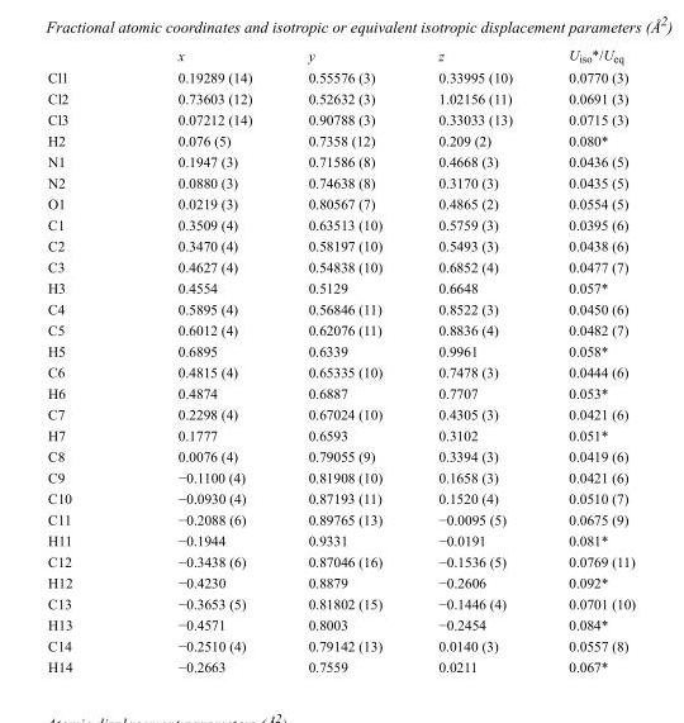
<table><thead><tr><td></td><td>x</td><td>y</td><td>z</td><td>U<sub>iso</sub>*/U<sub>eq</sub></td></tr></thead><tbody><tr><td>Cl1</td><td>0.19289 (14)</td><td>0.55576 (3)</td><td>0.33995 (10)</td><td>0.0770 (3)</td></tr><tr><td>Cl2</td><td>0.73603 (12)</td><td>0.52632 (3)</td><td>1.02156 (11)</td><td>0.0691 (3)</td></tr><tr><td>Cl3</td><td>0.07212 (14)</td><td>0.90788 (3)</td><td>0.33033 (13)</td><td>0.0715 (3)</td></tr><tr><td>H2</td><td>0.076 (5)</td><td>0.7358 (12)</td><td>0.209 (2)</td><td>0.080*</td></tr><tr><td>N1</td><td>0.1947 (3)</td><td>0.71586 (8)</td><td>0.4668 (3)</td><td>0.0436 (5)</td></tr><tr><td>N2</td><td>0.0880 (3)</td><td>0.74638 (8)</td><td>0.3170 (3)</td><td>0.0435 (5)</td></tr><tr><td>O1</td><td>0.0219 (3)</td><td>0.80567 (7)</td><td>0.4865 (2)</td><td>0.0554 (5)</td></tr><tr><td>C1</td><td>0.3509 (4)</td><td>0.63513 (10)</td><td>0.5759 (3)</td><td>0.0395 (6)</td></tr><tr><td>C2</td><td>0.3470 (4)</td><td>0.58197 (10)</td><td>0.5493 (3)</td><td>0.0438 (6)</td></tr><tr><td>C3</td><td>0.4627 (4)</td><td>0.54838 (10)</td><td>0.6852 (4)</td><td>0.0477 (7)</td></tr><tr><td>H3</td><td>0.4554</td><td>0.5129</td><td>0.6648</td><td>0.057*</td></tr><tr><td>C4</td><td>0.5895 (4)</td><td>0.56846 (11)</td><td>0.8522 (3)</td><td>0.0450 (6)</td></tr><tr><td>C5</td><td>0.6012 (4)</td><td>0.62076 (11)</td><td>0.8836 (4)</td><td>0.0482 (7)</td></tr><tr><td>H5</td><td>0.6895</td><td>0.6339</td><td>0.9961</td><td>0.058*</td></tr><tr><td>C6</td><td>0.4815 (4)</td><td>0.65335 (10)</td><td>0.7478 (3)</td><td>0.0444 (6)</td></tr><tr><td>H6</td><td>0.4874</td><td>0.6887</td><td>0.7707</td><td>0.053*</td></tr><tr><td>C7</td><td>0.2298 (4)</td><td>0.67024 (10)</td><td>0.4305 (3)</td><td>0.0421 (6)</td></tr><tr><td>H7</td><td>0.1777</td><td>0.6593</td><td>0.3102</td><td>0.051*</td></tr><tr><td>C8</td><td>0.0076 (4)</td><td>0.79055 (9)</td><td>0.3394 (3)</td><td>0.0419 (6)</td></tr><tr><td>C9</td><td>−0.1100 (4)</td><td>0.81908 (10)</td><td>0.1658 (3)</td><td>0.0421 (6)</td></tr><tr><td>C10</td><td>−0.0930 (4)</td><td>0.87193 (11)</td><td>0.1520 (4)</td><td>0.0510 (7)</td></tr><tr><td>C11</td><td>−0.2088 (6)</td><td>0.89765 (13)</td><td>−0.0095 (5)</td><td>0.0675 (9)</td></tr><tr><td>H11</td><td>−0.1944</td><td>0.9331</td><td>−0.0191</td><td>0.081*</td></tr><tr><td>C12</td><td>−0.3438 (6)</td><td>0.87046 (16)</td><td>−0.1536 (5)</td><td>0.0769 (11)</td></tr><tr><td>H12</td><td>−0.4230</td><td>0.8879</td><td>−0.2606</td><td>0.092*</td></tr><tr><td>C13</td><td>−0.3653 (5)</td><td>0.81802 (15)</td><td>−0.1446 (4)</td><td>0.0701 (10)</td></tr><tr><td>H13</td><td>−0.4571</td><td>0.8003</td><td>−0.2454</td><td>0.084*</td></tr><tr><td>C14</td><td>−0.2510 (4)</td><td>0.79142 (13)</td><td>0.0140 (3)</td><td>0.0557 (8)</td></tr><tr><td>H14</td><td>−0.2663</td><td>0.7559</td><td>0.0211</td><td>0.067*</td></tr></tbody></table>